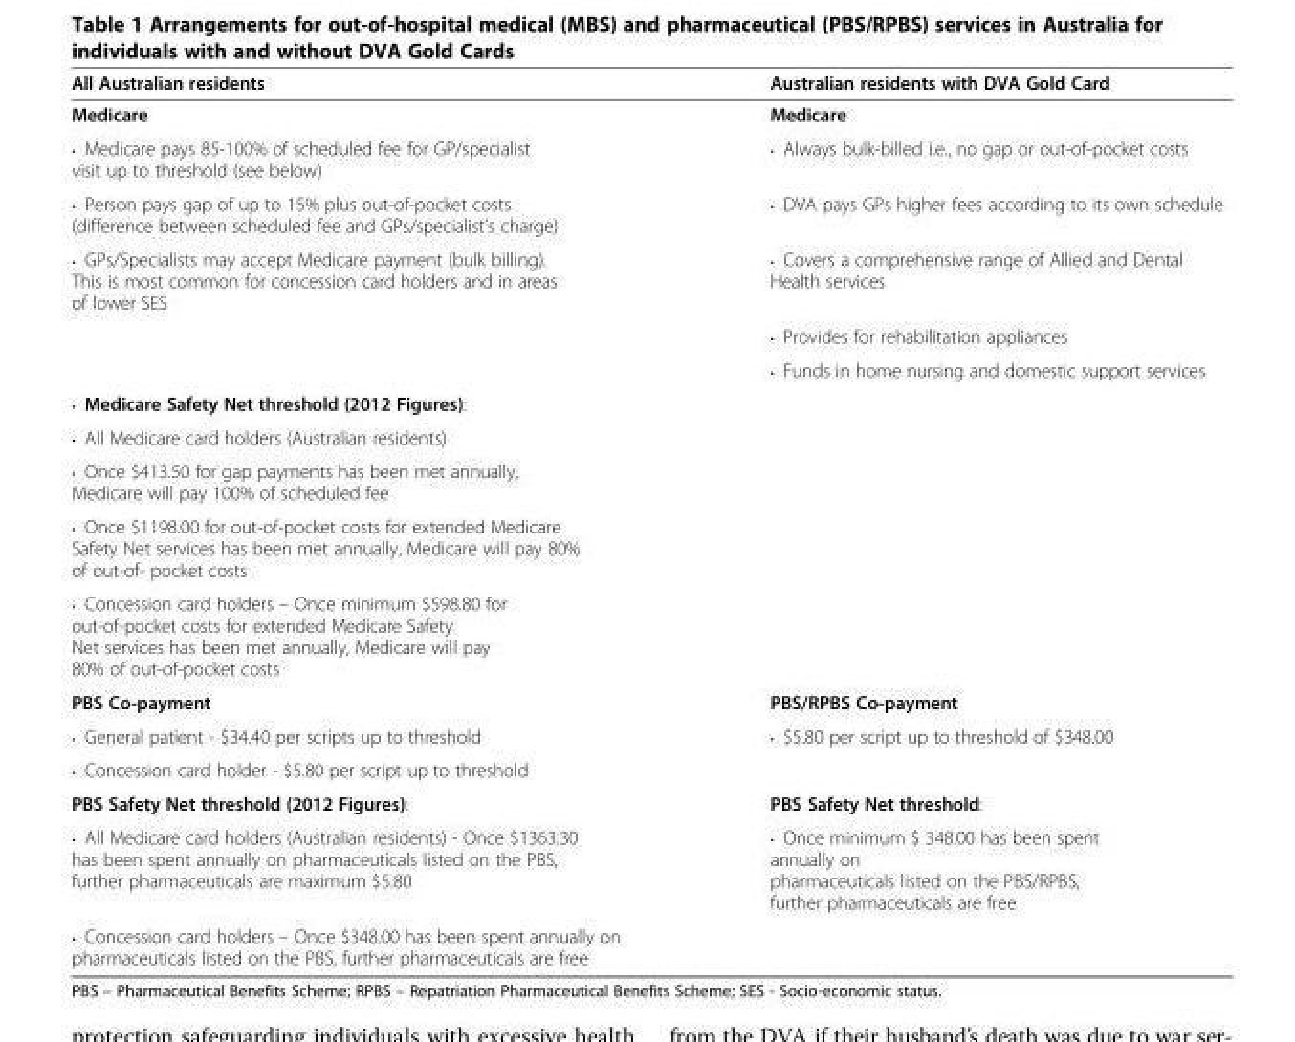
<table><thead><tr><td>All Australian residents</td><td>Australian residents with DVA Gold Card</td></tr></thead><tbody><tr><td>Medicare</td><td>Medicare</td></tr><tr><td>• Medicare pays 85-100% of scheduled fee for GP/specialist visit up to threshold (see below)</td><td>• Always bulk-billed i.e., no gap or out-of-pocket costs</td></tr><tr><td>• Person pays gap of up to 15% plus out-of-pocket costs (difference between scheduled fee and GPs/specialist’s charge)</td><td>• DVA pays GPs higher fees according to its own schedule</td></tr><tr><td rowspan="3">• GPs/Specialists may accept Medicare payment (bulk billing). This is most common for concession card holders and in areas of lower SES</td><td>• Covers a comprehensive range of Allied and Dental Health services</td></tr><tr><td>• Provides for rehabilitation appliances</td></tr><tr><td>• Funds in home nursing and domestic support services</td></tr><tr><td colspan="2">• Medicare Safety Net threshold (2012 Figures):</td></tr><tr><td colspan="2">• All Medicare card holders (Australian residents)</td></tr><tr><td colspan="2">• Once $413.50 for gap payments has been met annually, Medicare will pay 100% of scheduled fee</td></tr><tr><td colspan="2">• Once $1198.00 for out-of-pocket costs for extended Medicare Safety Net services has been met annually, Medicare will pay 80% of out-of- pocket costs</td></tr><tr><td colspan="2">• Concession card holders – Once minimum $598.80 for out-of-pocket costs for extended Medicare Safety Net services has been met annually, Medicare will pay 80% of out-of-pocket costs</td></tr><tr><td>PBS Co-payment</td><td>PBS/RPBS Co-payment</td></tr><tr><td>• General patient - $34.40 per scripts up to threshold</td><td>• $5.80 per script up to threshold of $348.00</td></tr><tr><td colspan="2">• Concession card holder - $5.80 per script up to threshold</td></tr><tr><td>PBS Safety Net threshold (2012 Figures):</td><td>PBS Safety Net threshold:</td></tr><tr><td>• All Medicare card holders (Australian residents) - Once $1363.30 has been spent annually on pharmaceuticals listed on the PBS, further pharmaceuticals are maximum $5.80</td><td>• Once minimum $ 348.00 has been spent annually on pharmaceuticals listed on the PBS/RPBS, further pharmaceuticals are free</td></tr><tr><td>• Concession card holders – Once $348.00 has been spent annually on pharmaceuticals listed on the PBS, further pharmaceuticals are free</td><td></td></tr></tbody></table>